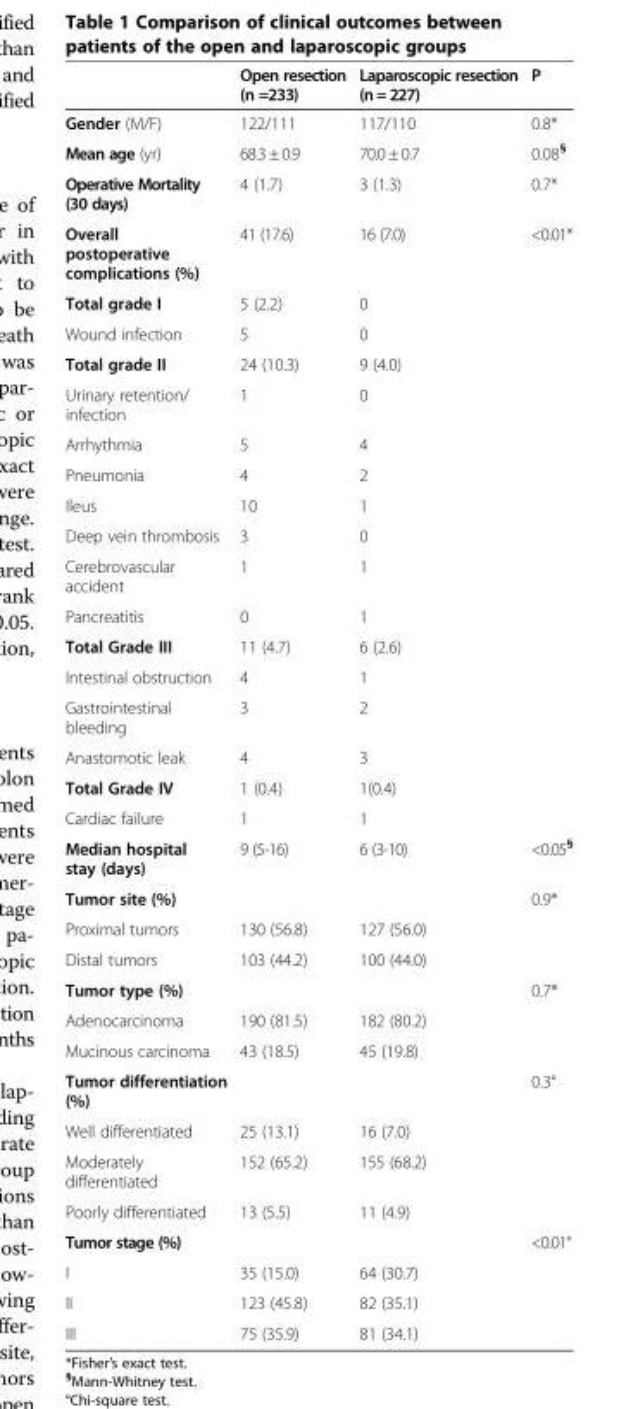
<table><thead><tr><td></td><td>Open resection (n =233)</td><td>Laparoscopic resection (n = 227)</td><td>P</td></tr></thead><tbody><tr><td>Gender (M/F)</td><td>122/111</td><td>117/110</td><td>0.8*</td></tr><tr><td>Mean age (yr)</td><td>68.3 ± 0.9</td><td>70.0 ± 0.7</td><td>0.08<sup>§</sup></td></tr><tr><td>Operative Mortality (30 days)</td><td>4 (1.7)</td><td>3 (1.3)</td><td>0.7*</td></tr><tr><td>Overall postoperative complications (%)</td><td>41 (17.6)</td><td>16 (7.0)</td><td>&lt;0.01*</td></tr><tr><td>Total grade I</td><td>5 (2.2)</td><td>0</td><td></td></tr><tr><td>Wound infection</td><td>5</td><td>0</td><td></td></tr><tr><td>Total grade II</td><td>24 (10.3)</td><td>9 (4.0)</td><td></td></tr><tr><td>Urinary retention/ infection</td><td>1</td><td>0</td><td></td></tr><tr><td>Arrhythmia</td><td>5</td><td>4</td><td></td></tr><tr><td>Pneumonia</td><td>4</td><td>2</td><td></td></tr><tr><td>Ileus</td><td>10</td><td>1</td><td></td></tr><tr><td>Deep vein thrombosis</td><td>3</td><td>0</td><td></td></tr><tr><td>Cerebrovascular accident</td><td>1</td><td>1</td><td></td></tr><tr><td>Pancreatitis</td><td>0</td><td>1</td><td></td></tr><tr><td>Total Grade III</td><td>11 (4.7)</td><td>6 (2.6)</td><td></td></tr><tr><td>Intestinal obstruction</td><td>4</td><td>1</td><td></td></tr><tr><td>Gastrointestinal bleeding</td><td>3</td><td>2</td><td></td></tr><tr><td>Anastomotic leak</td><td>4</td><td>3</td><td></td></tr><tr><td>Total Grade IV</td><td>1 (0.4)</td><td>1(0.4)</td><td></td></tr><tr><td>Cardiac failure</td><td>1</td><td>1</td><td></td></tr><tr><td>Median hospital stay (days)</td><td>9 (5-16)</td><td>6 (3-10)</td><td>&lt;0.05<sup>§</sup></td></tr><tr><td>Tumor site (%)</td><td></td><td></td><td>0.9*</td></tr><tr><td>Proximal tumors</td><td>130 (56.8)</td><td>127 (56.0)</td><td></td></tr><tr><td>Distal tumors</td><td>103 (44.2)</td><td>100 (44.0)</td><td></td></tr><tr><td>Tumor type (%)</td><td></td><td></td><td>0.7*</td></tr><tr><td>Adenocarcinoma</td><td>190 (81.5)</td><td>182 (80.2)</td><td></td></tr><tr><td>Mucinous carcinoma</td><td>43 (18.5)</td><td>45 (19.8)</td><td></td></tr><tr><td>Tumor differentiation (%)</td><td></td><td></td><td>0.3°</td></tr><tr><td>Well differentiated</td><td>25 (13.1)</td><td>16 (7.0)</td><td></td></tr><tr><td>Moderately differentiated</td><td>152 (65.2)</td><td>155 (68.2)</td><td></td></tr><tr><td>Poorly differentiated</td><td>13 (5.5)</td><td>11 (4.9)</td><td></td></tr><tr><td>Tumor stage (%)</td><td></td><td></td><td>&lt;0.01°</td></tr><tr><td>I</td><td>35 (15.0)</td><td>64 (30.7)</td><td rowspan="2"></td></tr><tr><td>II</td><td>123 (45.8)</td><td>82 (35.1)</td></tr><tr><td>III</td><td>75 (35.9)</td><td>81 (34.1)</td><td></td></tr></tbody></table>